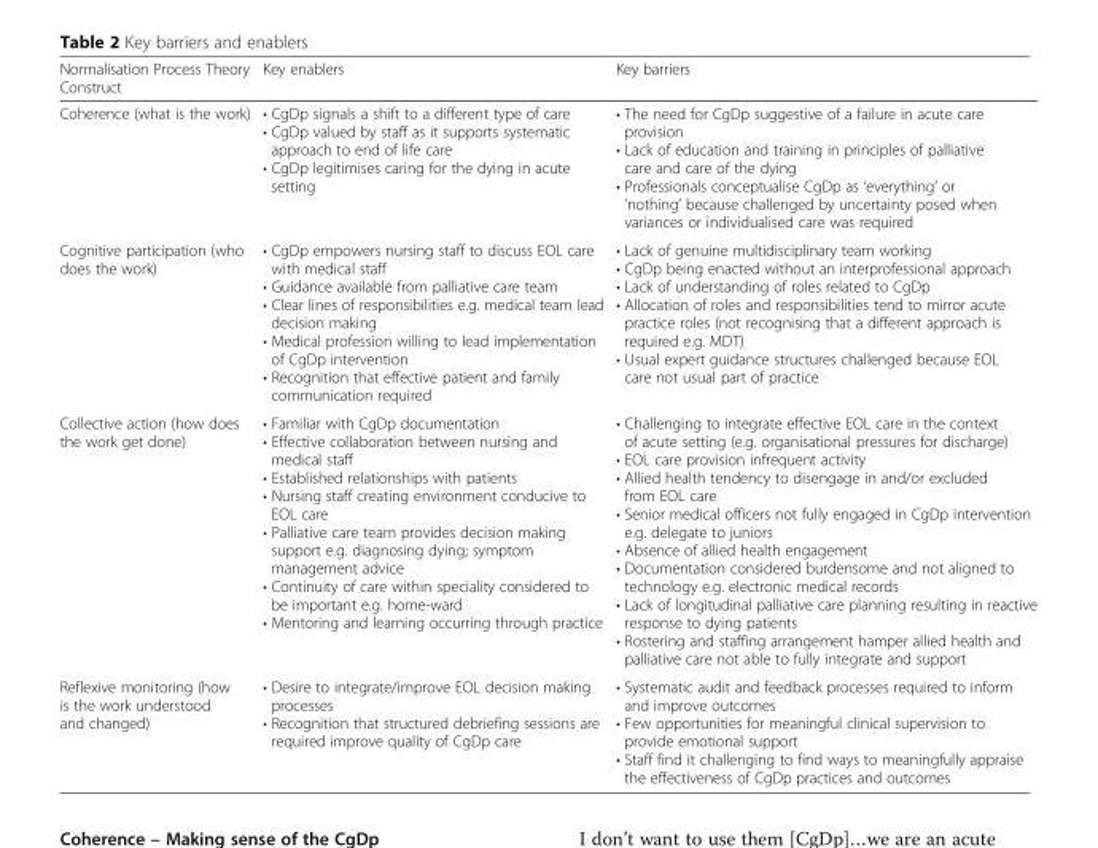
<table><thead><tr><td>Normalisation Process Theory Construct</td><td>Key enablers</td><td>Key barriers</td></tr></thead><tbody><tr><td>Coherence (what is the work)</td><td>• CgDp signals a shift to a different type of care • CgDp valued by staff as it supports systematic approach to end of life care • CgDp legitimises caring for the dying in acute setting</td><td>• The need for CgDp suggestive of a failure in acute care provision • Lack of education and training in principles of palliative care and care of the dying • Professionals conceptualise CgDp as ‘everything’ or ‘nothing’ because challenged by uncertainty posed when variances or individualised care was required</td></tr><tr><td>Cognitive participation (who does the work)</td><td>• CgDp empowers nursing staff to discuss EOL care with medical staff • Guidance available from palliative care team • Clear lines of responsibilities e.g. medical team lead decision making • Medical profession willing to lead implementation of CgDp intervention • Recognition that effective patient and family communication required</td><td>• Lack of genuine multidisciplinary team working • CgDp being enacted without an interprofessional approach • Lack of understanding of roles related to CgDp • Allocation of roles and responsibilities tend to mirror acute practice roles (not recognising that a different approach is required e.g. MDT) • Usual expert guidance structures challenged because EOL care not usual part of practice</td></tr><tr><td>Collective action (how does the work get done)</td><td>• Familiar with CgDp documentation • Effective collaboration between nursing and medical staff • Established relationships with patients • Nursing staff creating environment conducive to EOL care • Palliative care team provides decision making support e.g. diagnosing dying; symptom management advice • Continuity of care within speciality considered to be important e.g. home-ward • Mentoring and learning occurring through practice</td><td>• Challenging to integrate effective EOL care in the context of acute setting (e.g. organisational pressures for discharge) • EOL care provision infrequent activity • Allied health tendency to disengage in and/or excluded from EOL care • Senior medical officers not fully engaged in CgDp intervention e.g. delegate to juniors • Absence of allied health engagement • Documentation considered burdensome and not aligned to technology e.g. electronic medical records • Lack of longitudinal palliative care planning resulting in reactive response to dying patients • Rostering and staffing arrangement hamper allied health and palliative care not able to fully integrate and support</td></tr><tr><td>Reflexive monitoring (how is the work understood and changed)</td><td>• Desire to integrate/improve EOL decision making processes • Recognition that structured debriefing sessions are required improve quality of CgDp care</td><td>• Systematic audit and feedback processes required to inform and improve outcomes • Few opportunities for meaningful clinical supervision to provide emotional support • Staff find it challenging to find ways to meaningfully appraise the effectiveness of CgDp practices and outcomes</td></tr></tbody></table>